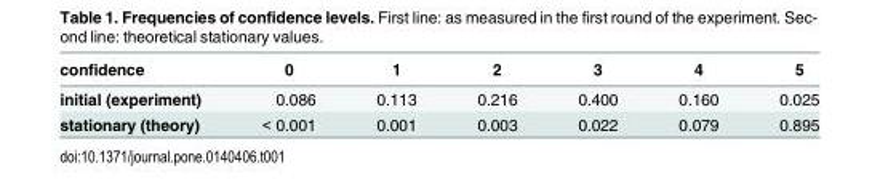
<table><thead><tr><td>confidence</td><td>0</td><td>1</td><td>2</td><td>3</td><td>4</td><td>5</td></tr></thead><tbody><tr><td>initial (experiment)</td><td>0.086</td><td>0.113</td><td>0.216</td><td>0.400</td><td>0.160</td><td>0.025</td></tr><tr><td>stationary (theory)</td><td>&lt; 0.001</td><td>0.001</td><td>0.003</td><td>0.022</td><td>0.079</td><td>0.895</td></tr></tbody></table>